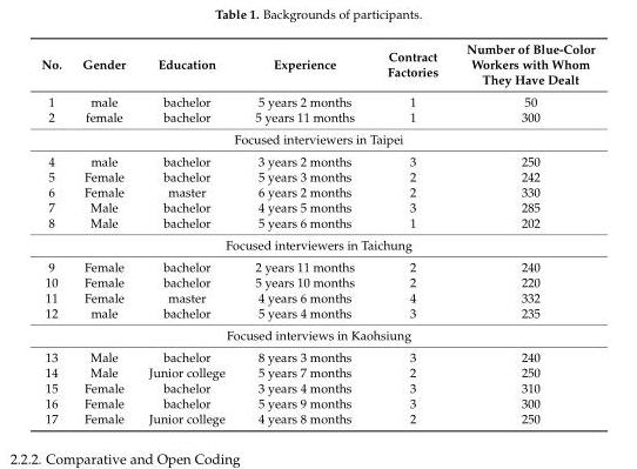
<table><thead><tr><td>No.</td><td>Gender</td><td>Education</td><td>Experience</td><td>Contract Factories</td><td>Number of Blue-Color Workers with Whom They Have Dealt</td></tr></thead><tbody><tr><td>1</td><td>male</td><td>bachelor</td><td>5 years 2 months</td><td>1</td><td>50</td></tr><tr><td>2</td><td>female</td><td>bachelor</td><td>5 years 11 months</td><td>1</td><td>300</td></tr><tr><td colspan="6">Focused interviewers in Taipei</td></tr><tr><td>4</td><td>male</td><td>bachelor</td><td>3 years 2 months</td><td>3</td><td>250</td></tr><tr><td>5</td><td>Female</td><td>bachelor</td><td>5 years 3 months</td><td>2</td><td>242</td></tr><tr><td>6</td><td>Female</td><td>master</td><td>6 years 2 months</td><td>2</td><td>330</td></tr><tr><td>7</td><td>Male</td><td>bachelor</td><td>4 years 5 months</td><td>3</td><td>285</td></tr><tr><td>8</td><td>Male</td><td>bachelor</td><td>5 years 6 months</td><td>1</td><td>202</td></tr><tr><td colspan="6">Focused interviewers in Taichung</td></tr><tr><td>9</td><td>Female</td><td>bachelor</td><td>2 years 11 months</td><td>2</td><td>240</td></tr><tr><td>10</td><td>Female</td><td>bachelor</td><td>5 years 10 months</td><td>2</td><td>220</td></tr><tr><td>11</td><td>Female</td><td>master</td><td>4 years 6 months</td><td>4</td><td>332</td></tr><tr><td>12</td><td>male</td><td>bachelor</td><td>5 years 4 months</td><td>3</td><td>235</td></tr><tr><td colspan="6">Focused interviews in Kaohsiung</td></tr><tr><td>13</td><td>Male</td><td>bachelor</td><td>8 years 3 months</td><td>3</td><td>240</td></tr><tr><td>14</td><td>Male</td><td>Junior college</td><td>5 years 7 months</td><td>2</td><td>250</td></tr><tr><td>15</td><td>Female</td><td>bachelor</td><td>3 years 4 months</td><td>3</td><td>310</td></tr><tr><td>16</td><td>Female</td><td>bachelor</td><td>5 years 9 months</td><td>3</td><td>300</td></tr><tr><td>17</td><td>Female</td><td>Junior college</td><td>4 years 8 months</td><td>2</td><td>250</td></tr></tbody></table>